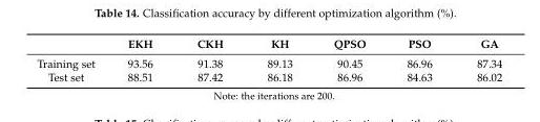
<table><thead><tr><td></td><td>EKH</td><td>CKH</td><td>KH</td><td>QPSO</td><td>PSO</td><td>GA</td></tr></thead><tbody><tr><td>Training set</td><td>93.56</td><td>91.38</td><td>89.13</td><td>90.45</td><td>86.96</td><td>87.34</td></tr><tr><td>Test set</td><td>88.51</td><td>87.42</td><td>86.18</td><td>86.96</td><td>84.63</td><td>86.02</td></tr></tbody></table>